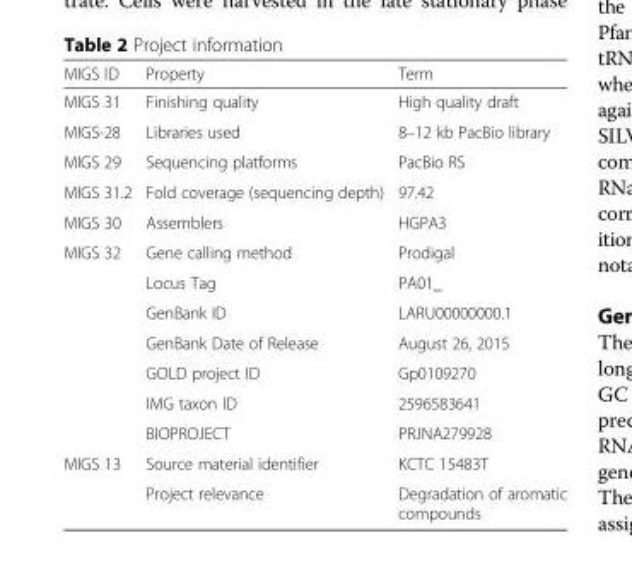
<table><thead><tr><td>MIGS ID</td><td>Property</td><td>Term</td></tr></thead><tbody><tr><td>MIGS 31</td><td>Finishing quality</td><td>High quality draft</td></tr><tr><td>MIGS-28</td><td>Libraries used</td><td>8–12 kb PacBio library</td></tr><tr><td>MIGS 29</td><td>Sequencing platforms</td><td>PacBio RS</td></tr><tr><td>MIGS 31.2</td><td>Fold coverage (sequencing depth)</td><td>97.42</td></tr><tr><td>MIGS 30</td><td>Assemblers</td><td>HGPA3</td></tr><tr><td rowspan="7">MIGS 32</td><td>Gene calling method</td><td>Prodigal</td></tr><tr><td>Locus Tag</td><td>PA01_</td></tr><tr><td>GenBank ID</td><td>LARU00000000.1</td></tr><tr><td>GenBank Date of Release</td><td>August 26, 2015</td></tr><tr><td>GOLD project ID</td><td>Gp0109270</td></tr><tr><td>IMG taxon ID</td><td>2596583641</td></tr><tr><td>BIOPROJECT</td><td>PRJNA279928</td></tr><tr><td rowspan="2">MIGS 13</td><td>Source material identifier</td><td>KCTC 15483T</td></tr><tr><td>Project relevance</td><td>Degradation of aromatic compounds</td></tr></tbody></table>